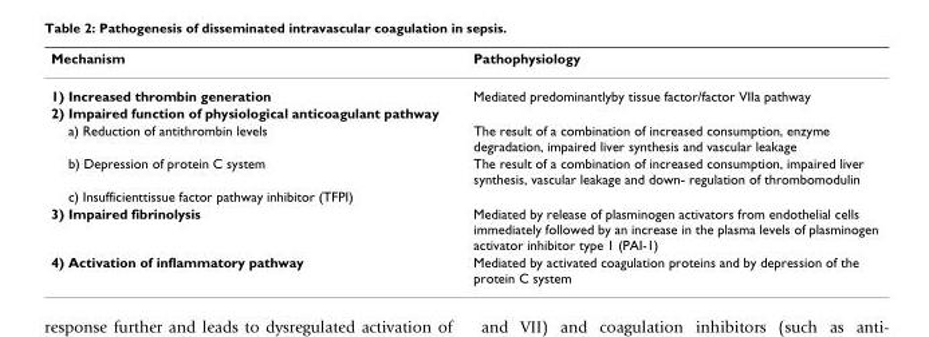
<table><thead><tr><td>Mechanism</td><td>Pathophysiology</td></tr></thead><tbody><tr><td>1) Increased thrombin generation</td><td>Mediated predominantlyby tissue factor/factor VIIa pathway</td></tr><tr><td colspan="2">2) Impaired function of physiological anticoagulant pathway</td></tr><tr><td>a) Reduction of antithrombin levels</td><td>The result of a combination of increased consumption, enzyme degradation, impaired liver synthesis and vascular leakage</td></tr><tr><td>b) Depression of protein C system</td><td>The result of a combination of increased consumption, impaired liver synthesis, vascular leakage and down- regulation of thrombomodulin</td></tr><tr><td colspan="2">c) Insufficienttissue factor pathway inhibitor (TFPI)</td></tr><tr><td>3) Impaired fibrinolysis</td><td>Mediated by release of plasminogen activators from endothelial cells immediately followed by an increase in the plasma levels of plasminogen activator inhibitor type 1 (PAI-1)</td></tr><tr><td>4) Activation of inflammatory pathway</td><td>Mediated by activated coagulation proteins and by depression of the protein C system</td></tr></tbody></table>